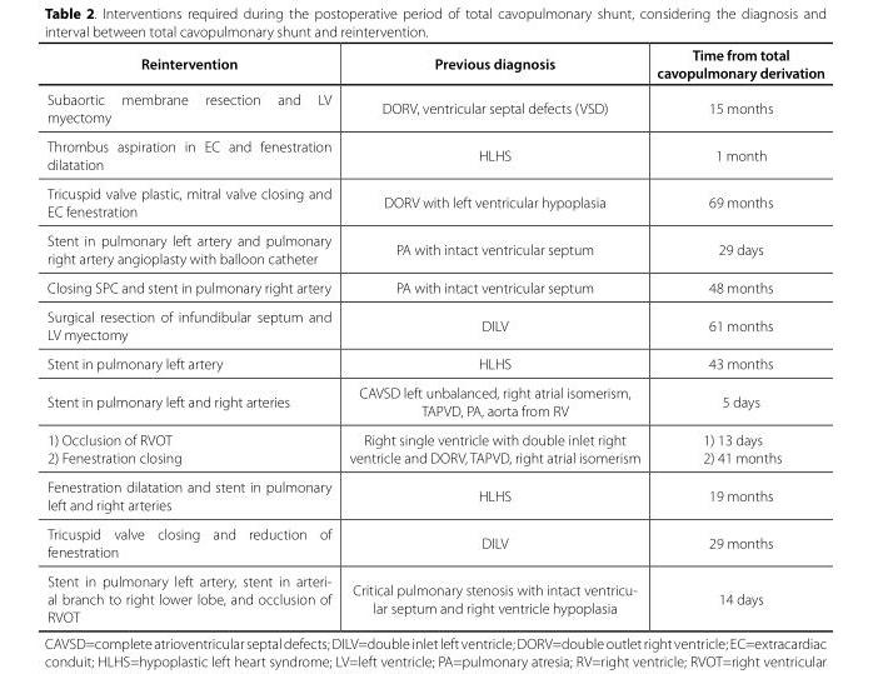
<table><thead><tr><td>Reintervention</td><td>Previous diagnosis</td><td>Time from total cavopulmonary derivation</td></tr></thead><tbody><tr><td>Subaortic membrane resection and LV myectomy</td><td>DORV, ventricular septal defects (VSD)</td><td>15 months</td></tr><tr><td>Thrombus aspiration in EC and fenestration dilatation</td><td>HLHS</td><td>1 month</td></tr><tr><td>Tricuspid valve plastic, mitral valve closing and EC fenestration</td><td>DORV with left ventricular hypoplasia</td><td>69 months</td></tr><tr><td>Stent in pulmonary left artery and pulmonary right artery angioplasty with balloon catheter</td><td>PA with intact ventricular septum</td><td>29 days</td></tr><tr><td>Closing SPC and stent in pulmonary right artery</td><td>PA with intact ventricular septum</td><td>48 months</td></tr><tr><td>Surgical resection of infundibular septum and LV myectomy</td><td>DILV</td><td>61 months</td></tr><tr><td>Stent in pulmonary left artery</td><td>HLHS</td><td>43 months</td></tr><tr><td>Stent in pulmonary left and right arteries</td><td>CAVSD left unbalanced, right atrial isomerism, TAPVD, PA, aorta from RV</td><td>5 days</td></tr><tr><td>1) Occlusion of RVOT 2) Fenestration closing</td><td>Right single ventricle with double inlet right ventricle and DORV, TAPVD, right atrial isomerism</td><td>1) 13 days 2) 41 months</td></tr><tr><td>Fenestration dilatation and stent in pulmonary left and right arteries</td><td>HLHS</td><td>19 months</td></tr><tr><td>Tricuspid valve closing and reduction of fenestration</td><td>DILV</td><td>29 months</td></tr><tr><td>Stent in pulmonary left artery, stent in arteri- al branch to right lower lobe, and occlusion of RVOT</td><td>Critical pulmonary stenosis with intact ventricu- lar septum and right ventricle hypoplasia</td><td>14 days</td></tr></tbody></table>